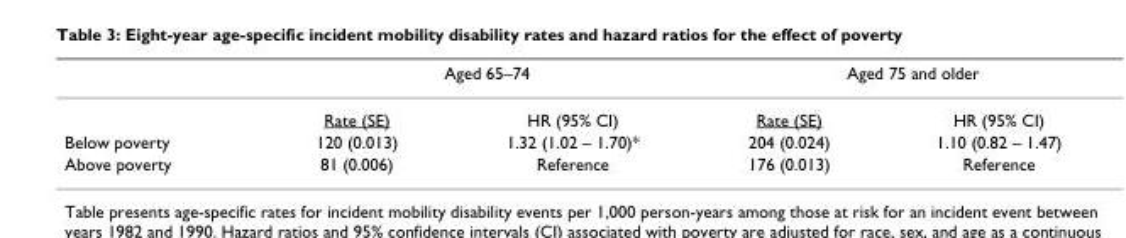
<table><thead><tr><td rowspan="2"></td><td colspan="2">Aged 65–74</td><td colspan="2">Aged 75 and older</td></tr><tr><td>Rate (SE)</td><td>HR (95% CI)</td><td>Rate (SE)</td><td>HR (95% CI)</td></tr></thead><tbody><tr><td>Below poverty</td><td>120 (0.013)</td><td>1.32 (1.02 – 1.70)*</td><td>204 (0.024)</td><td>1.10 (0.82 – 1.47)</td></tr><tr><td>Above poverty</td><td>81 (0.006)</td><td>Reference</td><td>176 (0.013)</td><td>Reference</td></tr></tbody></table>